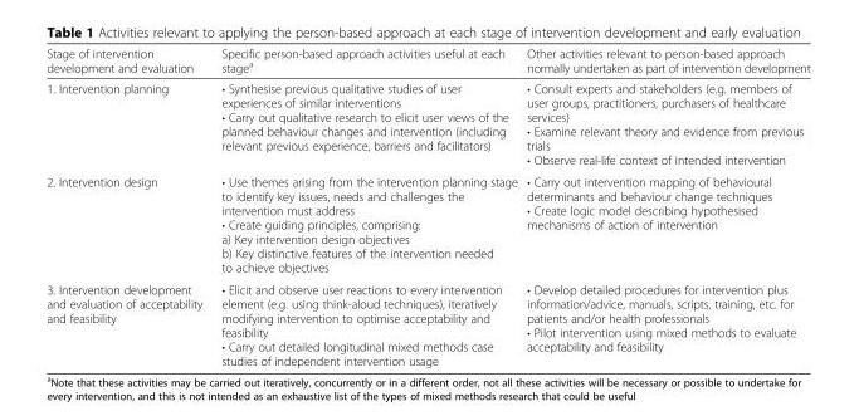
<table><thead><tr><td>Stage of intervention development and evaluation</td><td>Specific person-based approach activities useful at each stage<sup>a</sup></td><td>Other activities relevant to person-based approach normally undertaken as part of intervention development</td></tr></thead><tbody><tr><td>1. Intervention planning</td><td>• Synthesise previous qualitative studies of user experiences of similar interventions • Carry out qualitative research to elicit user views of the planned behaviour changes and intervention (including relevant previous experience, barriers and facilitators)</td><td>• Consult experts and stakeholders (e.g. members of user groups, practitioners, purchasers of healthcare services) • Examine relevant theory and evidence from previous trials • Observe real-life context of intended intervention</td></tr><tr><td>2. Intervention design</td><td>• Use themes arising from the intervention planning stage to identify key issues, needs and challenges the intervention must address • Create guiding principles, comprising: a) Key intervention design objectives b) Key distinctive features of the intervention needed to achieve objectives</td><td>• Carry out intervention mapping of behavioural determinants and behaviour change techniques • Create logic model describing hypothesised mechanisms of action of intervention</td></tr><tr><td>3. Intervention development and evaluation of acceptability and feasibility</td><td>• Elicit and observe user reactions to every intervention element (e.g. using think-aloud techniques), iteratively modifying intervention to optimise acceptability and feasibility • Carry out detailed longitudinal mixed methods case studies of independent intervention usage</td><td>• Develop detailed procedures for intervention plus information/advice, manuals, scripts, training, etc. for patients and/or health professionals • Pilot intervention using mixed methods to evaluate acceptability and feasibility</td></tr></tbody></table>